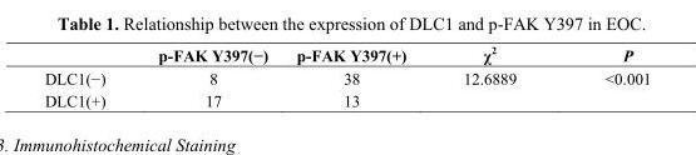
<table><thead><tr><td></td><td>p-FAK Y397(−)</td><td>p-FAK Y397(+)</td><td>χ<sup>2</sup></td><td>P</td></tr></thead><tbody><tr><td>DLC1(−)</td><td>8</td><td>38</td><td>12.6889</td><td>&lt;0.001</td></tr><tr><td>DLC1(+)</td><td>17</td><td>13</td><td></td><td></td></tr></tbody></table>